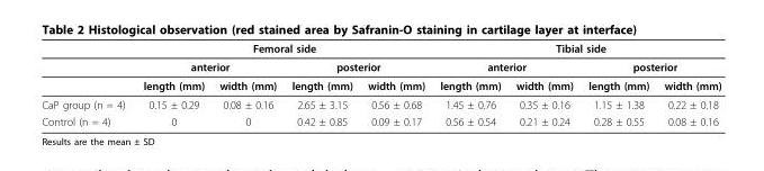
<table><thead><tr><td rowspan="3"></td><td colspan="4">Femoral side</td><td colspan="4">Tibial side</td></tr><tr><td colspan="2">anterior</td><td colspan="2">posterior</td><td colspan="2">anterior</td><td colspan="2">posterior</td></tr><tr><td>length (mm)</td><td>width (mm)</td><td>length (mm)</td><td>width (mm)</td><td>length (mm)</td><td>width (mm)</td><td>length (mm)</td><td>width (mm)</td></tr></thead><tbody><tr><td>CaP group (n = 4)</td><td>0.15 ± 0.29</td><td>0.08 ± 0.16</td><td>2.65 ± 3.15</td><td>0.56 ± 0.68</td><td>1.45 ± 0.76</td><td>0.35 ± 0.16</td><td>1.15 ± 1.38</td><td>0.22 ± 0.18</td></tr><tr><td>Control (n = 4)</td><td>0</td><td>0</td><td>0.42 ± 0.85</td><td>0.09 ± 0.17</td><td>0.56 ± 0.54</td><td>0.21 ± 0.24</td><td>0.28 ± 0.55</td><td>0.08 ± 0.16</td></tr></tbody></table>